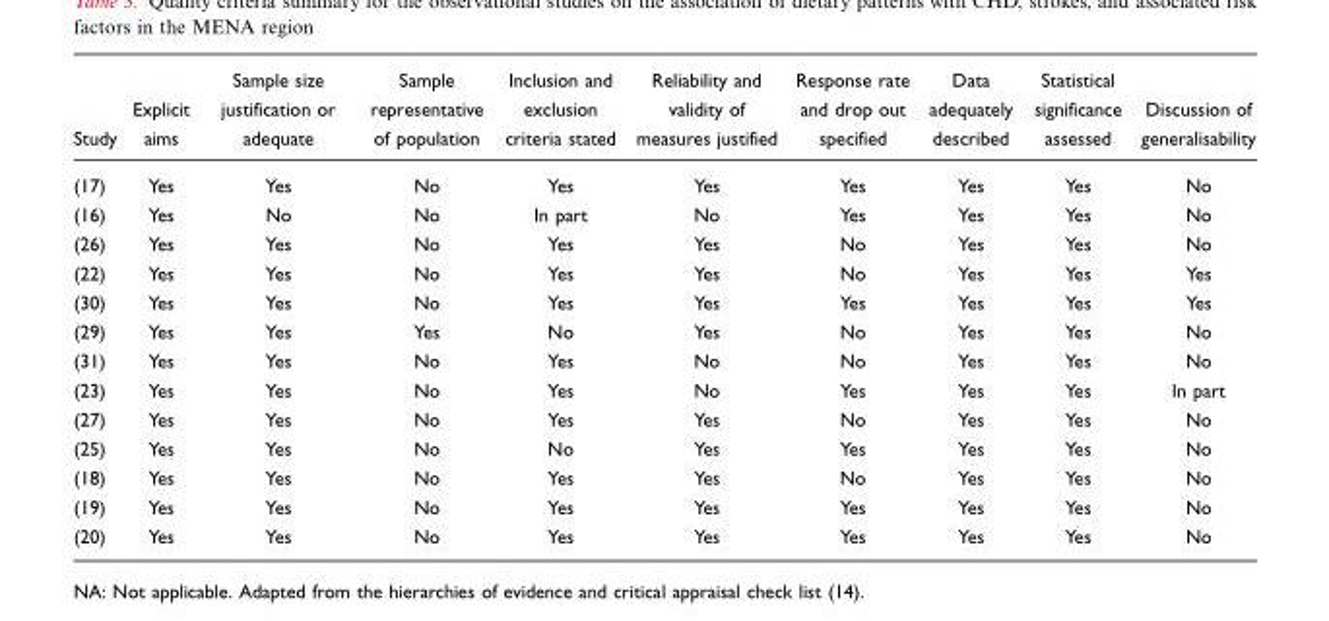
<table><thead><tr><td>Study</td><td>Explicit aims</td><td>Sample size justification or adequate</td><td>Sample representative of population</td><td>Inclusion and exclusion criteria stated</td><td>Reliability and validity of measures justified</td><td>Response rate and drop out specified</td><td>Data adequately described</td><td>Statistical significance assessed</td><td>Discussion of generalisability</td></tr></thead><tbody><tr><td>(17)</td><td>Yes</td><td>Yes</td><td>No</td><td>Yes</td><td>Yes</td><td>Yes</td><td>Yes</td><td>Yes</td><td>No</td></tr><tr><td>(16)</td><td>Yes</td><td>No</td><td>No</td><td>In part</td><td>No</td><td>Yes</td><td>Yes</td><td>Yes</td><td>No</td></tr><tr><td>(26)</td><td>Yes</td><td>Yes</td><td>No</td><td>Yes</td><td>Yes</td><td>No</td><td>Yes</td><td>Yes</td><td>No</td></tr><tr><td>(22)</td><td>Yes</td><td>Yes</td><td>No</td><td>Yes</td><td>Yes</td><td>No</td><td>Yes</td><td>Yes</td><td>Yes</td></tr><tr><td>(30)</td><td>Yes</td><td>Yes</td><td>No</td><td>Yes</td><td>Yes</td><td>Yes</td><td>Yes</td><td>Yes</td><td>Yes</td></tr><tr><td>(29)</td><td>Yes</td><td>Yes</td><td>Yes</td><td>No</td><td>Yes</td><td>No</td><td>Yes</td><td>Yes</td><td>No</td></tr><tr><td>(31)</td><td>Yes</td><td>Yes</td><td>No</td><td>Yes</td><td>No</td><td>No</td><td>Yes</td><td>Yes</td><td>No</td></tr><tr><td>(23)</td><td>Yes</td><td>Yes</td><td>No</td><td>Yes</td><td>No</td><td>Yes</td><td>Yes</td><td>Yes</td><td>In part</td></tr><tr><td>(27)</td><td>Yes</td><td>Yes</td><td>No</td><td>Yes</td><td>Yes</td><td>No</td><td>Yes</td><td>Yes</td><td>No</td></tr><tr><td>(25)</td><td>Yes</td><td>Yes</td><td>No</td><td>No</td><td>Yes</td><td>Yes</td><td>Yes</td><td>Yes</td><td>No</td></tr><tr><td>(18)</td><td>Yes</td><td>Yes</td><td>No</td><td>Yes</td><td>Yes</td><td>No</td><td>Yes</td><td>Yes</td><td>No</td></tr><tr><td>(19)</td><td>Yes</td><td>Yes</td><td>No</td><td>Yes</td><td>Yes</td><td>Yes</td><td>Yes</td><td>Yes</td><td>No</td></tr><tr><td>(20)</td><td>Yes</td><td>Yes</td><td>No</td><td>Yes</td><td>Yes</td><td>Yes</td><td>Yes</td><td>Yes</td><td>No</td></tr></tbody></table>